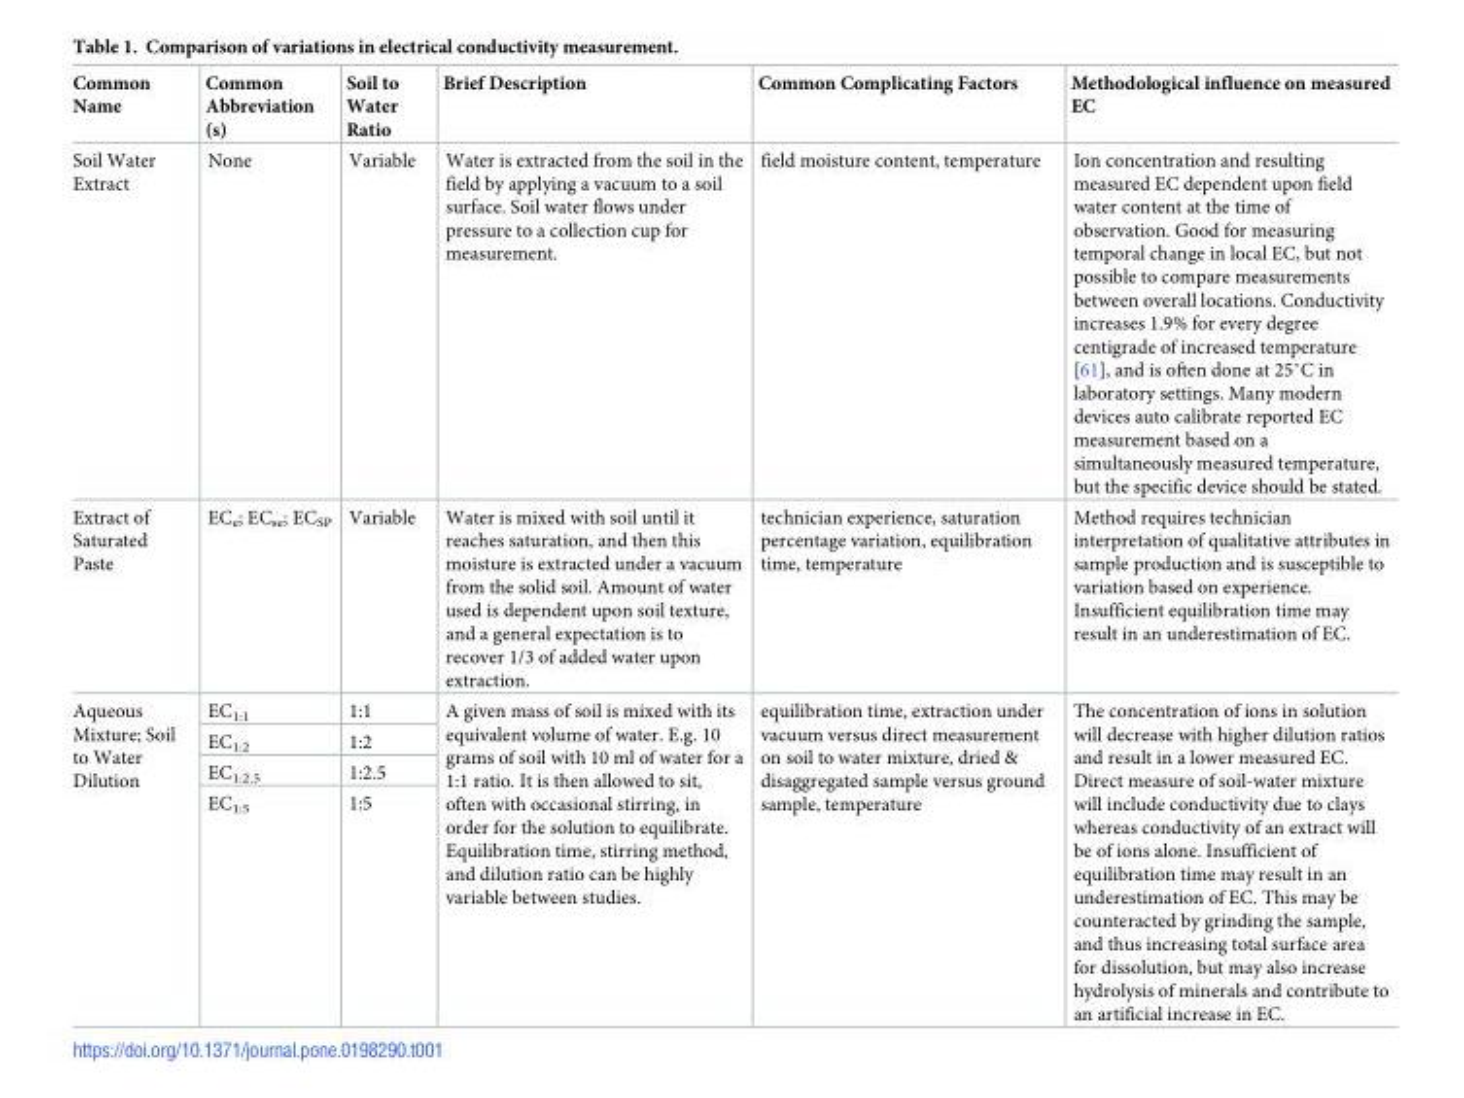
<table><thead><tr><td>Common Name</td><td>Common Abbreviation (s)</td><td>Soil to Water Ratio</td><td>Brief Description</td><td>Common Complicating Factors</td><td>Methodological influence on measured EC</td></tr></thead><tbody><tr><td>Soil Water Extract</td><td>None</td><td>Variable</td><td>Water is extracted from the soil in the field by applying a vacuum to a soil surface. Soil water flows under pressure to a collection cup for measurement.</td><td>field moisture content, temperature</td><td>Ion concentration and resulting measured EC dependent upon field water content at the time of observation. Good for measuring temporal change in local EC, but not possible to compare measurements between overall locations. Conductivity increases 1.9% for every degree centigrade of increased temperature [61], and is often done at 25˚C in laboratory settings. Many modern devices auto calibrate reported EC measurement based on a simultaneously measured temperature, but the specific device should be stated.</td></tr><tr><td>Extract of Saturated Paste</td><td>EC<sub>e</sub>; EC<sub>se</sub>; EC<sub>SP</sub></td><td>Variable</td><td>Water is mixed with soil until it reaches saturation, and then this moisture is extracted under a vacuum from the solid soil. Amount of water used is dependent upon soil texture, and a general expectation is to recover 1/3 of added water upon extraction.</td><td>technician experience, saturation percentage variation, equilibration time, temperature</td><td>Method requires technician interpretation of qualitative attributes in sample production and is susceptible to variation based on experience. Insufficient equilibration time may result in an underestimation of EC.</td></tr><tr><td rowspan="4">Aqueous Mixture; Soil to Water Dilution</td><td>EC<sub>1:1</sub></td><td>1:1</td><td rowspan="4">A given mass of soil is mixed with its equivalent volume of water. E.g. 10 grams of soil with 10 ml of water for a 1:1 ratio. It is then allowed to sit, often with occasional stirring, in order for the solution to equilibrate. Equilibration time, stirring method, and dilution ratio can be highly variable between studies.</td><td rowspan="4">equilibration time, extraction under vacuum versus direct measurement on soil to water mixture, dried &amp; disaggregated sample versus ground sample, temperature</td><td rowspan="4">The concentration of ions in solution will decrease with higher dilution ratios and result in a lower measured EC. Direct measure of soil-water mixture will include conductivity due to clays whereas conductivity of an extract will be of ions alone. Insufficient of equilibration time may result in an underestimation of EC. This may be counteracted by grinding the sample, and thus increasing total surface area for dissolution, but may also increase hydrolysis of minerals and contribute to an artificial increase in EC.</td></tr><tr><td>EC<sub>1:2</sub></td><td>1:2</td></tr><tr><td>EC<sub>1:2.5</sub></td><td>1:2.5</td></tr><tr><td>EC<sub>1:5</sub></td><td>1:5</td></tr></tbody></table>